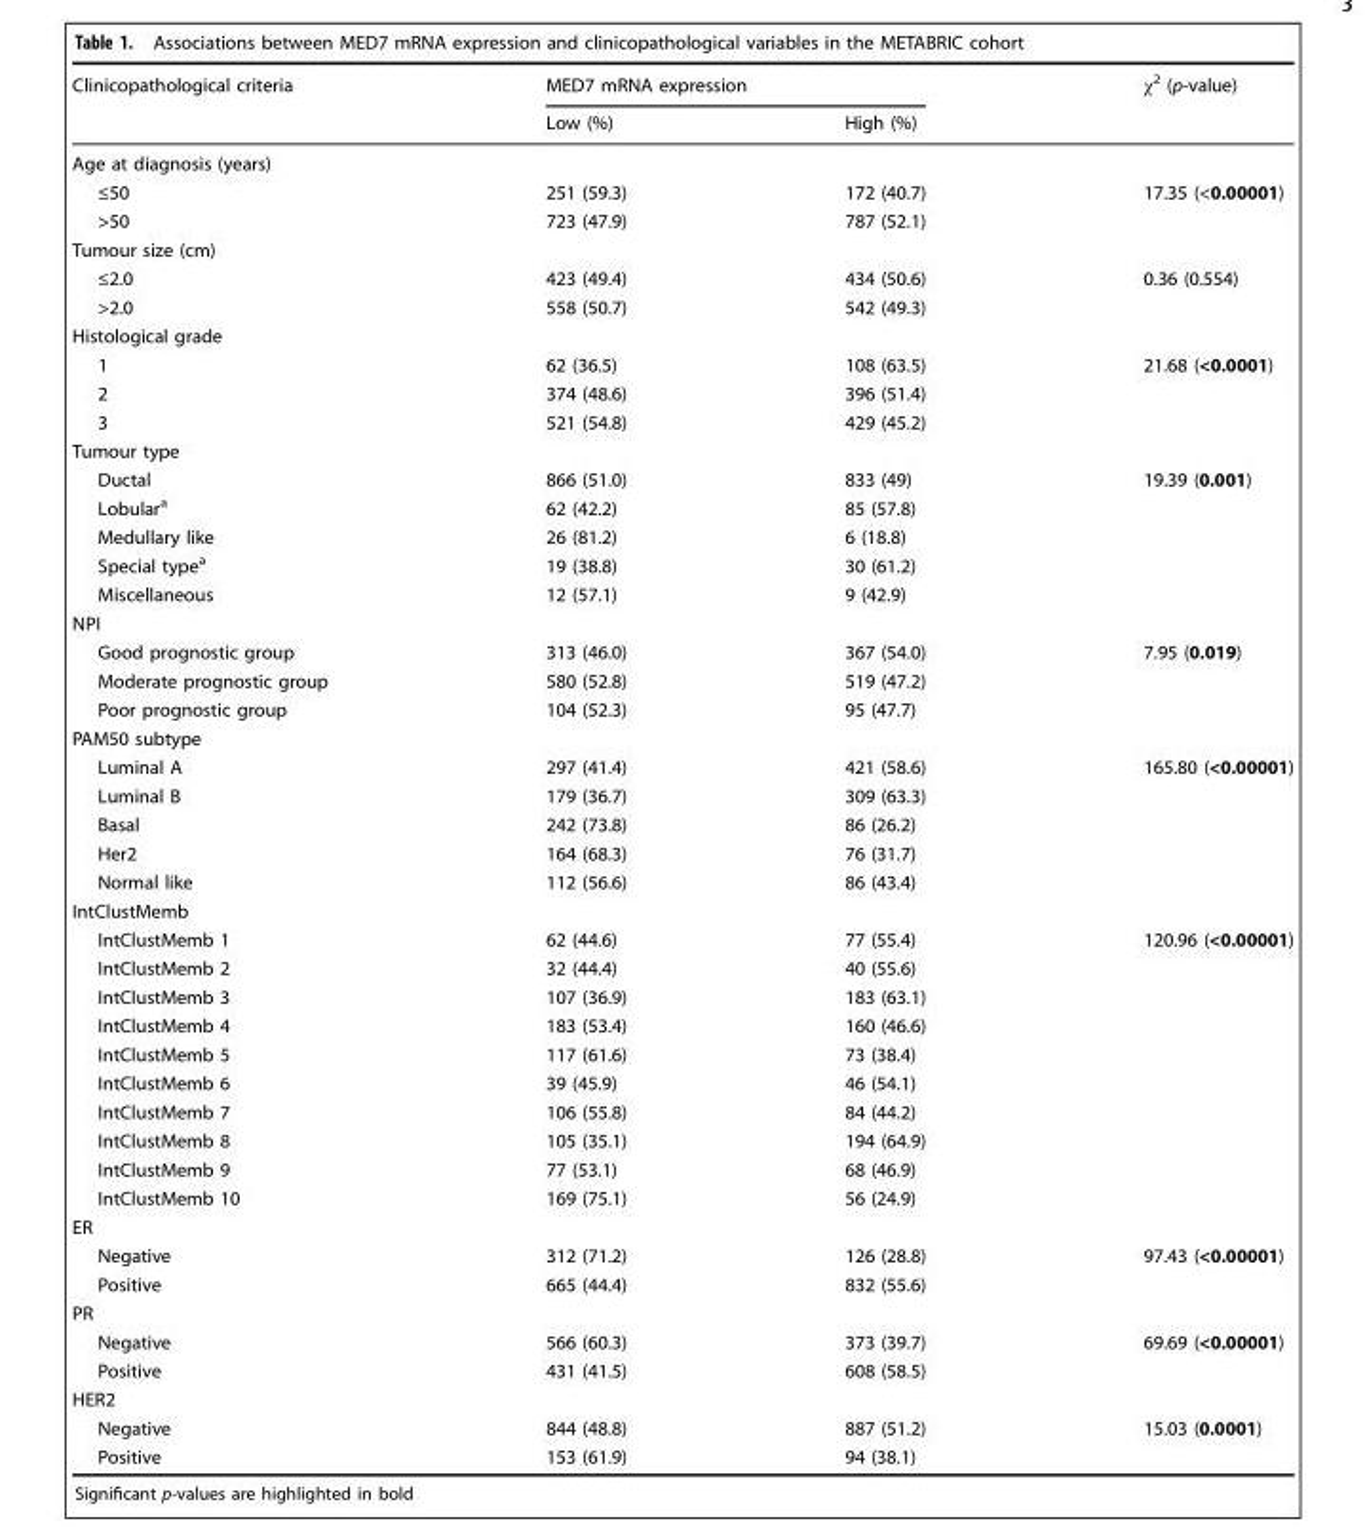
<table><thead><tr><td rowspan="2">Clinicopathological criteria</td><td colspan="2">MED7 mRNA expression</td><td rowspan="2">χ<sup>2</sup> (p-value)</td></tr><tr><td>Low (%)</td><td>High (%)</td></tr></thead><tbody><tr><td colspan="4">Age at diagnosis (years)</td></tr><tr><td>≤50</td><td>251 (59.3)</td><td>172 (40.7)</td><td>17.35 (&lt;0.00001)</td></tr><tr><td>&gt;50</td><td>723 (47.9)</td><td>787 (52.1)</td><td></td></tr><tr><td colspan="4">Tumour size (cm)</td></tr><tr><td>≤2.0</td><td>423 (49.4)</td><td>434 (50.6)</td><td>0.36 (0.554)</td></tr><tr><td>&gt;2.0</td><td>558 (50.7)</td><td>542 (49.3)</td><td></td></tr><tr><td colspan="4">Histological grade</td></tr><tr><td>1</td><td>62 (36.5)</td><td>108 (63.5)</td><td>21.68 (&lt;0.0001)</td></tr><tr><td>2</td><td>374 (48.6)</td><td>396 (51.4)</td><td></td></tr><tr><td>3</td><td>521 (54.8)</td><td>429 (45.2)</td><td></td></tr><tr><td colspan="4">Tumour type</td></tr><tr><td>Ductal</td><td>866 (51.0)</td><td>833 (49)</td><td>19.39 (0.001)</td></tr><tr><td>Lobular<sup>a</sup></td><td>62 (42.2)</td><td>85 (57.8)</td><td></td></tr><tr><td>Medullary like</td><td>26 (81.2)</td><td>6 (18.8)</td><td></td></tr><tr><td>Special type<sup>a</sup></td><td>19 (38.8)</td><td>30 (61.2)</td><td></td></tr><tr><td>Miscellaneous</td><td>12 (57.1)</td><td>9 (42.9)</td><td></td></tr><tr><td colspan="4">NPI</td></tr><tr><td>Good prognostic group</td><td>313 (46.0)</td><td>367 (54.0)</td><td>7.95 (0.019)</td></tr><tr><td>Moderate prognostic group</td><td>580 (52.8)</td><td>519 (47.2)</td><td></td></tr><tr><td>Poor prognostic group</td><td>104 (52.3)</td><td>95 (47.7)</td><td></td></tr><tr><td colspan="4">PAM50 subtype</td></tr><tr><td>Luminal A</td><td>297 (41.4)</td><td>421 (58.6)</td><td>165.80 (&lt;0.00001)</td></tr><tr><td>Luminal B</td><td>179 (36.7)</td><td>309 (63.3)</td><td></td></tr><tr><td>Basal</td><td>242 (73.8)</td><td>86 (26.2)</td><td></td></tr><tr><td>Her2</td><td>164 (68.3)</td><td>76 (31.7)</td><td></td></tr><tr><td>Normal like</td><td>112 (56.6)</td><td>86 (43.4)</td><td></td></tr><tr><td colspan="4">IntClustMemb</td></tr><tr><td>IntClustMemb 1</td><td>62 (44.6)</td><td>77 (55.4)</td><td>120.96 (&lt;0.00001)</td></tr><tr><td>IntClustMemb 2</td><td>32 (44.4)</td><td>40 (55.6)</td><td></td></tr><tr><td>IntClustMemb 3</td><td>107 (36.9)</td><td>183 (63.1)</td><td></td></tr><tr><td>IntClustMemb 4</td><td>183 (53.4)</td><td>160 (46.6)</td><td></td></tr><tr><td>IntClustMemb 5</td><td>117 (61.6)</td><td>73 (38.4)</td><td></td></tr><tr><td>IntClustMemb 6</td><td>39 (45.9)</td><td>46 (54.1)</td><td></td></tr><tr><td>IntClustMemb 7</td><td>106 (55.8)</td><td>84 (44.2)</td><td></td></tr><tr><td>IntClustMemb 8</td><td>105 (35.1)</td><td>194 (64.9)</td><td></td></tr><tr><td>IntClustMemb 9</td><td>77 (53.1)</td><td>68 (46.9)</td><td></td></tr><tr><td>IntClustMemb 10</td><td>169 (75.1)</td><td>56 (24.9)</td><td></td></tr><tr><td colspan="4">ER</td></tr><tr><td>Negative</td><td>312 (71.2)</td><td>126 (28.8)</td><td>97.43 (&lt;0.00001)</td></tr><tr><td>Positive</td><td>665 (44.4)</td><td>832 (55.6)</td><td></td></tr><tr><td colspan="4">PR</td></tr><tr><td>Negative</td><td>566 (60.3)</td><td>373 (39.7)</td><td>69.69 (&lt;0.00001)</td></tr><tr><td>Positive</td><td>431 (41.5)</td><td>608 (58.5)</td><td></td></tr><tr><td colspan="4">HER2</td></tr><tr><td>Negative</td><td>844 (48.8)</td><td>887 (51.2)</td><td>15.03 (0.0001)</td></tr><tr><td>Positive</td><td>153 (61.9)</td><td>94 (38.1)</td><td></td></tr></tbody></table>